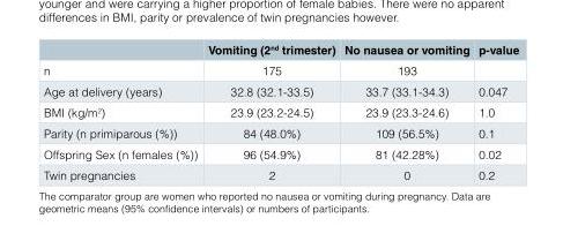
<table><thead><tr><td></td><td>Vomiting (2<sup>nd</sup> trimester)</td><td>No nausea or vomiting</td><td>p-value</td></tr></thead><tbody><tr><td>n</td><td>175</td><td>193</td><td></td></tr><tr><td>Age at delivery (years)</td><td>32.8 (32.1-33.5)</td><td>33.7 (33.1-34.3)</td><td>0.047</td></tr><tr><td>BMI (kg/m<sup>2</sup>)</td><td>23.9 (23.2-24.5)</td><td>23.9 (23.3-24.6)</td><td>1.0</td></tr><tr><td>Parity (n primiparous (%))</td><td>84 (48.0%)</td><td>109 (56.5%)</td><td>0.1</td></tr><tr><td>Offspring Sex (n females (%))</td><td>96 (54.9%)</td><td>81 (42.28%)</td><td>0.02</td></tr><tr><td>Twin pregnancies</td><td>2</td><td>0</td><td>0.2</td></tr></tbody></table>